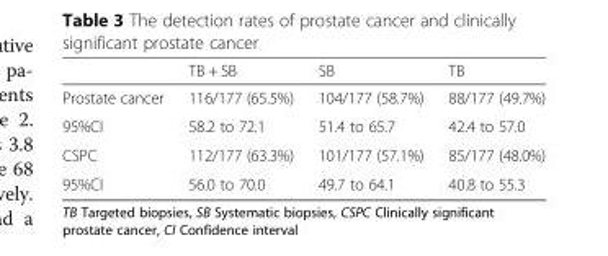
<table><thead><tr><td></td><td>TB + SB</td><td>SB</td><td>TB</td></tr></thead><tbody><tr><td>Prostate cancer</td><td>116/177 (65.5%)</td><td>104/177 (58.7%)</td><td>88/177 (49.7%)</td></tr><tr><td>95%CI</td><td>58.2 to 72.1</td><td>51.4 to 65.7</td><td>42.4 to 57.0</td></tr><tr><td>CSPC</td><td>112/177 (63.3%)</td><td>101/177 (57.1%)</td><td>85/177 (48.0%)</td></tr><tr><td>95%CI</td><td>56.0 to 70.0</td><td>49.7 to 64.1</td><td>40.8 to 55.3</td></tr></tbody></table>